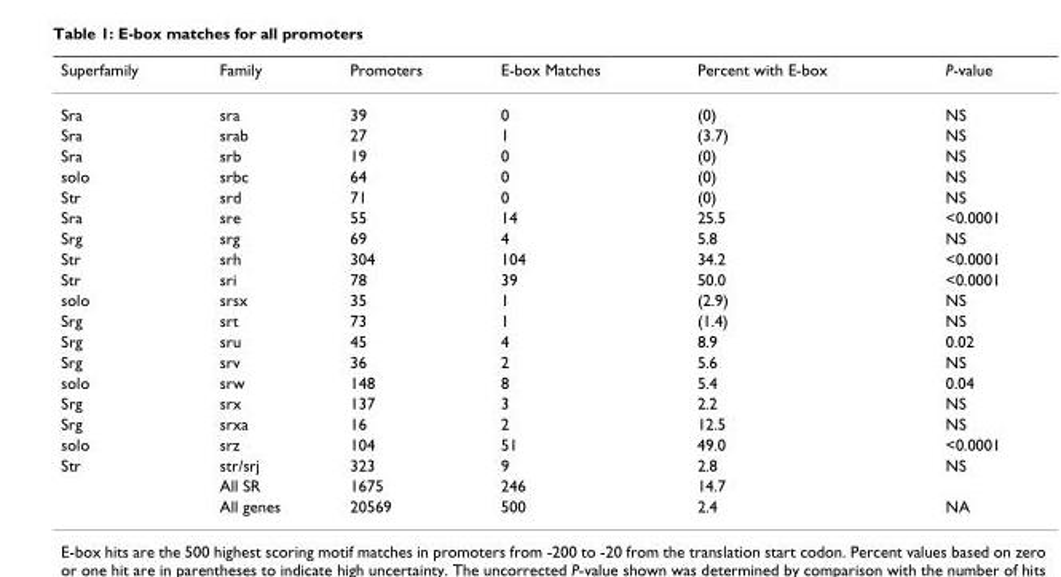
<table><thead><tr><td>Superfamily</td><td>Family</td><td>Promoters</td><td>E-box Matches</td><td>Percent with E-box</td><td>P-value</td></tr></thead><tbody><tr><td>Sra</td><td>sra</td><td>39</td><td>0</td><td>(0)</td><td>NS</td></tr><tr><td>Sra</td><td>srab</td><td>27</td><td>1</td><td>(3.7)</td><td>NS</td></tr><tr><td>Sra</td><td>srb</td><td>19</td><td>0</td><td>(0)</td><td>NS</td></tr><tr><td>solo</td><td>srbc</td><td>64</td><td>0</td><td>(0)</td><td>NS</td></tr><tr><td>Str</td><td>srd</td><td>71</td><td>0</td><td>(0)</td><td>NS</td></tr><tr><td>Sra</td><td>sre</td><td>55</td><td>14</td><td>25.5</td><td>&lt;0.0001</td></tr><tr><td>Srg</td><td>srg</td><td>69</td><td>4</td><td>5.8</td><td>NS</td></tr><tr><td>Str</td><td>srh</td><td>304</td><td>104</td><td>34.2</td><td>&lt;0.0001</td></tr><tr><td>Str</td><td>sri</td><td>78</td><td>39</td><td>50.0</td><td>&lt;0.0001</td></tr><tr><td>solo</td><td>srsx</td><td>35</td><td>1</td><td>(2.9)</td><td>NS</td></tr><tr><td>Srg</td><td>srt</td><td>73</td><td>1</td><td>(1.4)</td><td>NS</td></tr><tr><td>Srg</td><td>sru</td><td>45</td><td>4</td><td>8.9</td><td>0.02</td></tr><tr><td>Srg</td><td>srv</td><td>36</td><td>2</td><td>5.6</td><td>NS</td></tr><tr><td>solo</td><td>srw</td><td>148</td><td>8</td><td>5.4</td><td>0.04</td></tr><tr><td>Srg</td><td>srx</td><td>137</td><td>3</td><td>2.2</td><td>NS</td></tr><tr><td>Srg</td><td>srxa</td><td>16</td><td>2</td><td>12.5</td><td>NS</td></tr><tr><td>solo</td><td>srz</td><td>104</td><td>51</td><td>49.0</td><td>&lt;0.0001</td></tr><tr><td rowspan="3">Str</td><td>str/srj</td><td>323</td><td>9</td><td>2.8</td><td>NS</td></tr><tr><td>All SR</td><td>1675</td><td>246</td><td>14.7</td><td></td></tr><tr><td>All genes</td><td>20569</td><td>500</td><td>2.4</td><td>NA</td></tr></tbody></table>